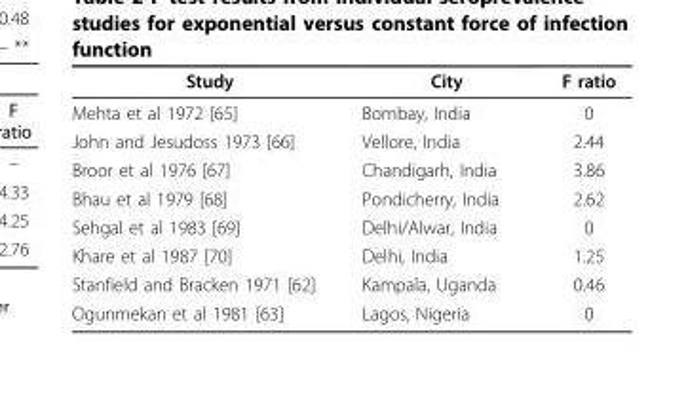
<table><thead><tr><td>Study</td><td>City</td><td>F ratio</td></tr></thead><tbody><tr><td>Mehta et al 1972 [65]</td><td>Bombay, India</td><td>0</td></tr><tr><td>John and Jesudoss 1973 [66]</td><td>Vellore, India</td><td>2.44</td></tr><tr><td>Broor et al 1976 [67]</td><td>Chandigarh, India</td><td>3.86</td></tr><tr><td>Bhau et al 1979 [68]</td><td>Pondicherry, India</td><td>2.62</td></tr><tr><td>Sehgal et al 1983 [69]</td><td>Delhi/Alwar, India</td><td>0</td></tr><tr><td>Khare et al 1987 [70]</td><td>Delhi, India</td><td>1.25</td></tr><tr><td>Stanfield and Bracken 1971 [62]</td><td>Kampala, Uganda</td><td>0.46</td></tr><tr><td>Ogunmekan et al 1981 [63]</td><td>Lagos, Nigeria</td><td>0</td></tr></tbody></table>